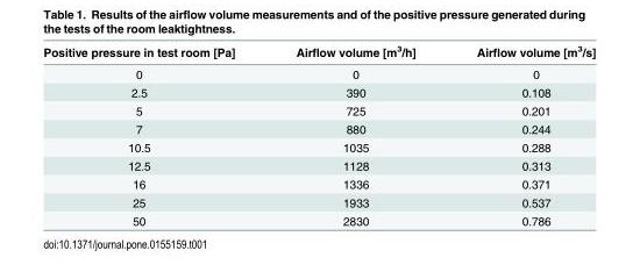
<table><thead><tr><td>Positive pressure in test room [Pa]</td><td>Airflow volume [m<sup>3</sup>/h]</td><td>Airflow volume [m<sup>3</sup>/s]</td></tr></thead><tbody><tr><td>0</td><td>0</td><td>0</td></tr><tr><td>2.5</td><td>390</td><td>0.108</td></tr><tr><td>5</td><td>725</td><td>0.201</td></tr><tr><td>7</td><td>880</td><td>0.244</td></tr><tr><td>10.5</td><td>1035</td><td>0.288</td></tr><tr><td>12.5</td><td>1128</td><td>0.313</td></tr><tr><td>16</td><td>1336</td><td>0.371</td></tr><tr><td>25</td><td>1933</td><td>0.537</td></tr><tr><td>50</td><td>2830</td><td>0.786</td></tr></tbody></table>